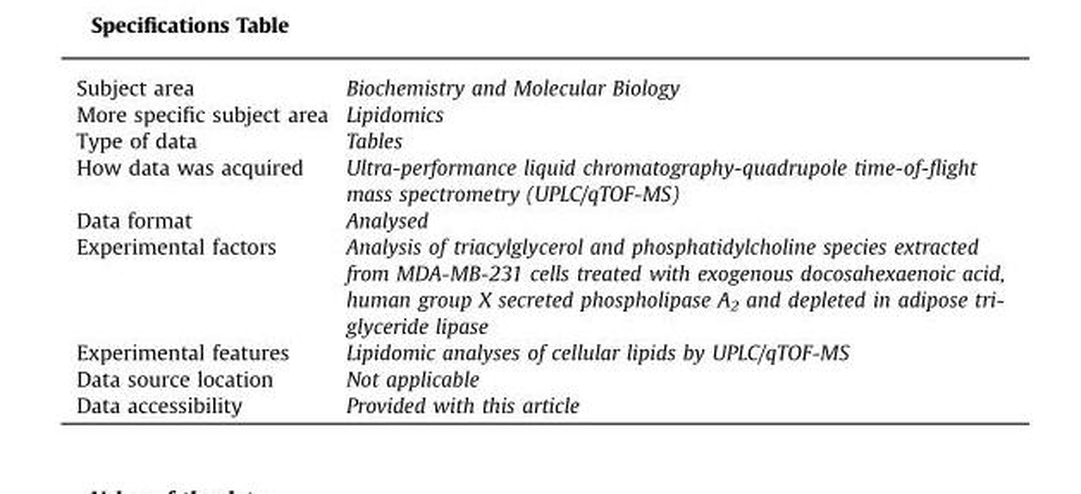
<table><tbody><tr><td>Subject area</td><td>Biochemistry and Molecular Biology</td></tr><tr><td>More specific subject area</td><td>Lipidomics</td></tr><tr><td>Type of data</td><td>Tables</td></tr><tr><td>How data was acquired</td><td>Ultra-performance liquid chromatography-quadrupole time-of-flight mass spectrometry (UPLC/qTOF-MS)</td></tr><tr><td>Data format</td><td>Analysed</td></tr><tr><td>Experimental factors</td><td>Analysis of triacylglycerol and phosphatidylcholine species extracted from MDA-MB-231 cells treated with exogenous docosahexaenoic acid, human group X secreted phospholipase A2 and depleted in adipose tri- glyceride lipase</td></tr><tr><td>Experimental features</td><td>Lipidomic analyses of cellular lipids by UPLC/qTOF-MS</td></tr><tr><td>Data source location</td><td>Not applicable</td></tr><tr><td>Data accessibility</td><td>Provided with this article</td></tr></tbody></table>